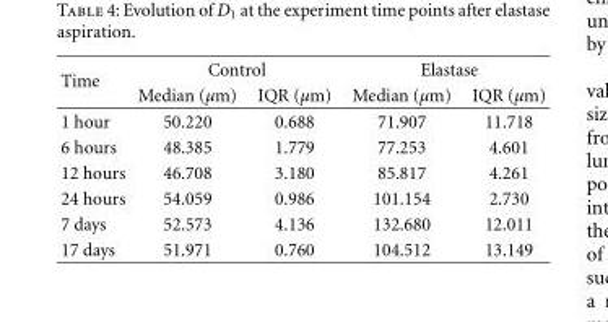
<table><thead><tr><td rowspan="2">Time</td><td colspan="2">Control</td><td colspan="2">Elastase</td></tr><tr><td>Median (μm)</td><td>IQR (μm)</td><td>Median (μm)</td><td>IQR (μm)</td></tr></thead><tbody><tr><td>1 hour</td><td>50.220</td><td>0.688</td><td>71.907</td><td>11.718</td></tr><tr><td>6 hours</td><td>48.385</td><td>1.779</td><td>77.253</td><td>4.601</td></tr><tr><td>12 hours</td><td>46.708</td><td>3.180</td><td>85.817</td><td>4.261</td></tr><tr><td>24 hours</td><td>54.059</td><td>0.986</td><td>101.154</td><td>2.730</td></tr><tr><td>7 days</td><td>52.573</td><td>4.136</td><td>132.680</td><td>12.011</td></tr><tr><td>17 days</td><td>51.971</td><td>0.760</td><td>104.512</td><td>13.149</td></tr></tbody></table>